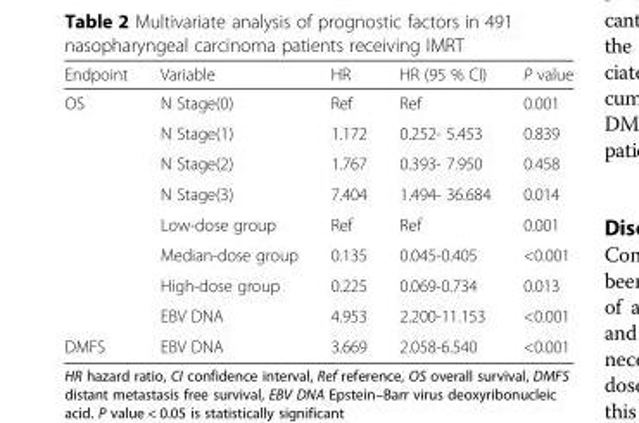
<table><thead><tr><td>Endpoint</td><td>Variable</td><td>HR</td><td>HR (95 % CI)</td><td>P value</td></tr></thead><tbody><tr><td rowspan="8">OS</td><td>N Stage(0)</td><td>Ref</td><td>Ref</td><td>0.001</td></tr><tr><td>N Stage(1)</td><td>1.172</td><td>0.252- 5.453</td><td>0.839</td></tr><tr><td>N Stage(2)</td><td>1.767</td><td>0.393- 7.950</td><td>0.458</td></tr><tr><td>N Stage(3)</td><td>7.404</td><td>1.494- 36.684</td><td>0.014</td></tr><tr><td>Low-dose group</td><td>Ref</td><td>Ref</td><td>0.001</td></tr><tr><td>Median-dose group</td><td>0.135</td><td>0.045-0.405</td><td>&lt;0.001</td></tr><tr><td>High-dose group</td><td>0.225</td><td>0.069-0.734</td><td>0.013</td></tr><tr><td>EBV DNA</td><td>4.953</td><td>2.200-11.153</td><td>&lt;0.001</td></tr><tr><td>DMFS</td><td>EBV DNA</td><td>3.669</td><td>2.058-6.540</td><td>&lt;0.001</td></tr></tbody></table>